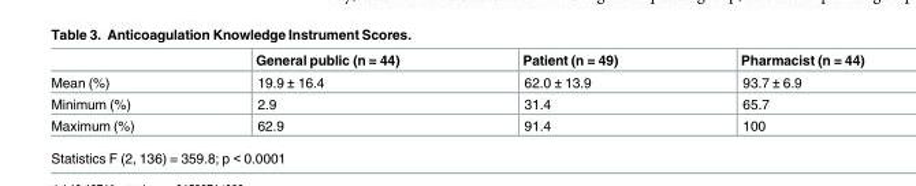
<table><thead><tr><td></td><td>General public (n = 44)</td><td>Patient (n = 49)</td><td>Pharmacist (n = 44)</td></tr></thead><tbody><tr><td>Mean (%)</td><td>19.9 ± 16.4</td><td>62.0 ± 13.9</td><td>93.7 ± 6.9</td></tr><tr><td>Minimum (%)</td><td>2.9</td><td>31.4</td><td>65.7</td></tr><tr><td>Maximum (%)</td><td>62.9</td><td>91.4</td><td>100</td></tr></tbody></table>